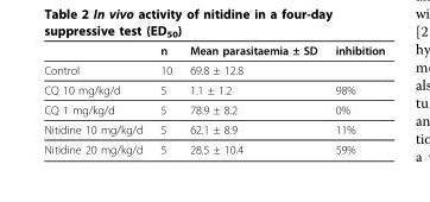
<table><thead><tr><td></td><td>n</td><td>Mean parasitaemia ± SD</td><td>inhibition</td></tr></thead><tbody><tr><td>Control</td><td>10</td><td>69.8 ± 12.8</td><td></td></tr><tr><td>CQ 10 mg/kg/d</td><td>5</td><td>1.1 ± 1.2</td><td>98%</td></tr><tr><td>CQ 1 mg/kg/d</td><td>5</td><td>78.9 ± 8.2</td><td>0%</td></tr><tr><td>Nitidine 10 mg/kg/d</td><td>5</td><td>62.1 ± 8.9</td><td>11%</td></tr><tr><td>Nitidine 20 mg/kg/d</td><td>5</td><td>28.5 ± 10.4</td><td>59%</td></tr></tbody></table>